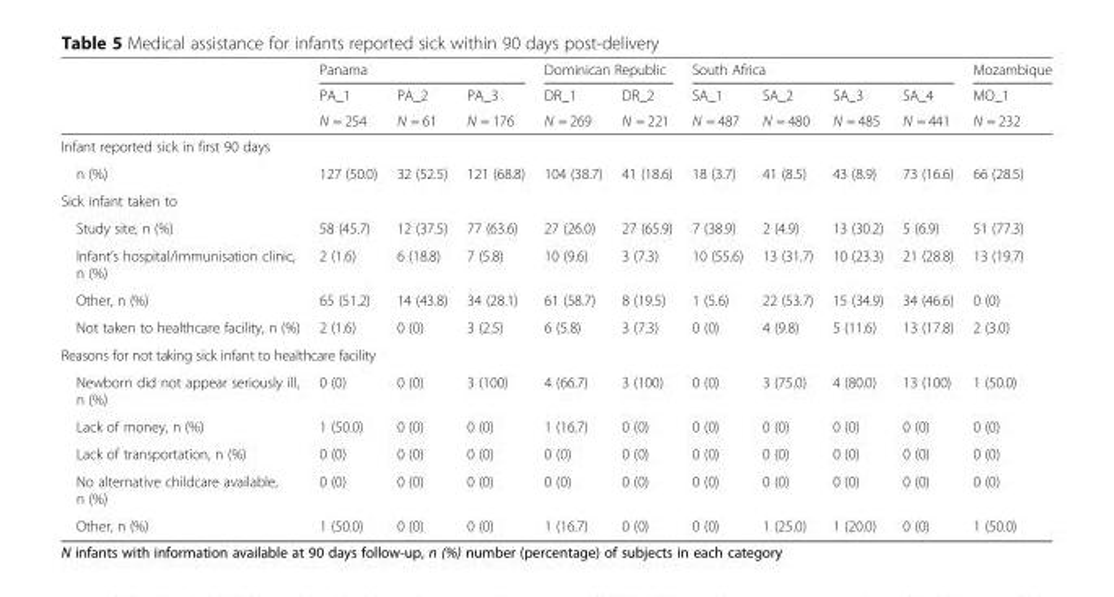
<table><thead><tr><td rowspan="3"></td><td colspan="3">Panama</td><td colspan="2">Dominican Republic</td><td colspan="4">South Africa</td><td rowspan="3">Mozambique MO_1 N = 232</td></tr><tr><td rowspan="2">PA_1 N = 254</td><td rowspan="2">PA_2 N = 61</td><td rowspan="2">PA_3 N = 176</td><td rowspan="2">DR_1 N = 269</td><td rowspan="2">DR_2 N = 221</td><td rowspan="2">SA_1 N = 487</td><td rowspan="2">SA_2 N = 480</td><td rowspan="2">SA_3 N = 485</td><td rowspan="2">SA_4 N = 441</td></tr><tr></tr></thead><tbody><tr><td colspan="11">Infant reported sick in first 90 days</td></tr><tr><td>n (%)</td><td>127 (50.0)</td><td>32 (52.5)</td><td>121 (68.8)</td><td>104 (38.7)</td><td>41 (18.6)</td><td>18 (3.7)</td><td>41 (8.5)</td><td>43 (8.9)</td><td>73 (16.6)</td><td>66 (28.5)</td></tr><tr><td colspan="11">Sick infant taken to</td></tr><tr><td>Study site, n (%)</td><td>58 (45.7)</td><td>12 (37.5)</td><td>77 (63.6)</td><td>27 (26.0)</td><td>27 (65.9)</td><td>7 (38.9)</td><td>2 (4.9)</td><td>13 (30.2)</td><td>5 (6.9)</td><td>51 (77.3)</td></tr><tr><td>Infant’s hospital/immunisation clinic, n (%)</td><td>2 (1.6)</td><td>6 (18.8)</td><td>7 (5.8)</td><td>10 (9.6)</td><td>3 (7.3)</td><td>10 (55.6)</td><td>13 (31.7)</td><td>10 (23.3)</td><td>21 (28.8)</td><td>13 (19.7)</td></tr><tr><td>Other, n (%)</td><td>65 (51.2)</td><td>14 (43.8)</td><td>34 (28.1)</td><td>61 (58.7)</td><td>8 (19.5)</td><td>1 (5.6)</td><td>22 (53.7)</td><td>15 (34.9)</td><td>34 (46.6)</td><td>0 (0)</td></tr><tr><td>Not taken to healthcare facility, n (%)</td><td>2 (1.6)</td><td>0 (0)</td><td>3 (2.5)</td><td>6 (5.8)</td><td>3 (7.3)</td><td>0 (0)</td><td>4 (9.8)</td><td>5 (11.6)</td><td>13 (17.8)</td><td>2 (3.0)</td></tr><tr><td colspan="11">Reasons for not taking sick infant to healthcare facility</td></tr><tr><td>Newborn did not appear seriously ill, n (%)</td><td>0 (0)</td><td>0 (0)</td><td>3 (100)</td><td>4 (66.7)</td><td>3 (100)</td><td>0 (0)</td><td>3 (75.0)</td><td>4 (80.0)</td><td>13 (100)</td><td>1 (50.0)</td></tr><tr><td>Lack of money, n (%)</td><td>1 (50.0)</td><td>0 (0)</td><td>0 (0)</td><td>1 (16.7)</td><td>0 (0)</td><td>0 (0)</td><td>0 (0)</td><td>0 (0)</td><td>0 (0)</td><td>0 (0)</td></tr><tr><td>Lack of transportation, n (%)</td><td>0 (0)</td><td>0 (0)</td><td>0 (0)</td><td>0 (0)</td><td>0 (0)</td><td>0 (0)</td><td>0 (0)</td><td>0 (0)</td><td>0 (0)</td><td>0 (0)</td></tr><tr><td>No alternative childcare available, n (%)</td><td>0 (0)</td><td>0 (0)</td><td>0 (0)</td><td>0 (0)</td><td>0 (0)</td><td>0 (0)</td><td>0 (0)</td><td>0 (0)</td><td>0 (0)</td><td>0 (0)</td></tr><tr><td>Other, n (%)</td><td>1 (50.0)</td><td>0 (0)</td><td>0 (0)</td><td>1 (16.7)</td><td>0 (0)</td><td>0 (0)</td><td>1 (25.0)</td><td>1 (20.0)</td><td>0 (0)</td><td>1 (50.0)</td></tr></tbody></table>